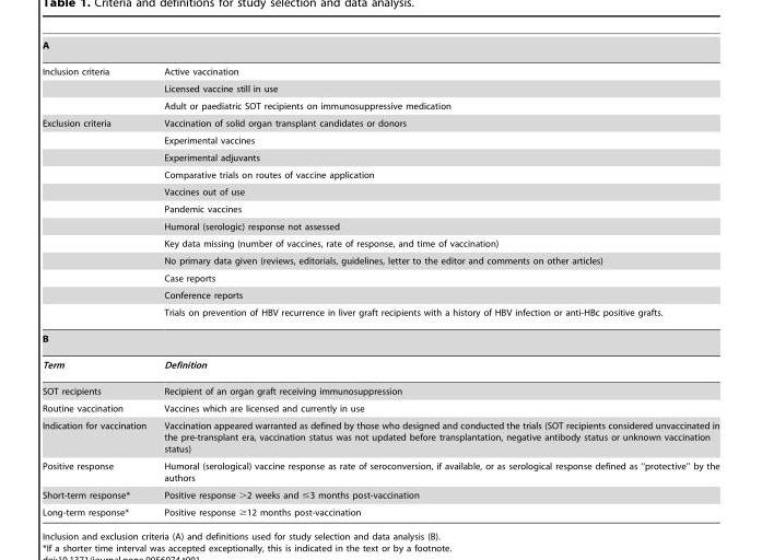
<table><tbody><tr><td colspan="2">A</td></tr><tr><td rowspan="3">Inclusion criteria</td><td>Active vaccination</td></tr><tr><td>Licensed vaccine still in use</td></tr><tr><td>Adult or paediatric SOT recipients on immunosuppressive medication</td></tr><tr><td rowspan="12">Exclusion criteria</td><td>Vaccination of solid organ transplant candidates or donors</td></tr><tr><td>Experimental vaccines</td></tr><tr><td>Experimental adjuvants</td></tr><tr><td>Comparative trials on routes of vaccine application</td></tr><tr><td>Vaccines out of use</td></tr><tr><td>Pandemic vaccines</td></tr><tr><td>Humoral (serologic) response not assessed</td></tr><tr><td>Key data missing (number of vaccines, rate of response, and time of vaccination)</td></tr><tr><td>No primary data given (reviews, editorials, guidelines, letter to the editor and comments on other articles)</td></tr><tr><td>Case reports</td></tr><tr><td>Conference reports</td></tr><tr><td>Trials on prevention of HBV recurrence in liver graft recipients with a history of HBV infection or anti-HBc positive grafts.</td></tr><tr><td colspan="2">B</td></tr><tr><td>Term</td><td>Definition</td></tr><tr><td>SOT recipients</td><td>Recipient of an organ graft receiving immunosuppression</td></tr><tr><td>Routine vaccination</td><td>Vaccines which are licensed and currently in use</td></tr><tr><td>Indication for vaccination</td><td>Vaccination appeared warranted as defined by those who designed and conducted the trials (SOT recipients considered unvaccinated in the pre-transplant era, vaccination status was not updated before transplantation, negative antibody status or unknown vaccination status)</td></tr><tr><td>Positive response</td><td>Humoral (serological) vaccine response as rate of seroconversion, if available, or as serological response defined as ‘‘protective’’ by the authors</td></tr><tr><td>Short-term response*</td><td>Positive response &gt;2 weeks and ≤3 months post-vaccination</td></tr><tr><td>Long-term response*</td><td>Positive response ≥12 months post-vaccination</td></tr></tbody></table>